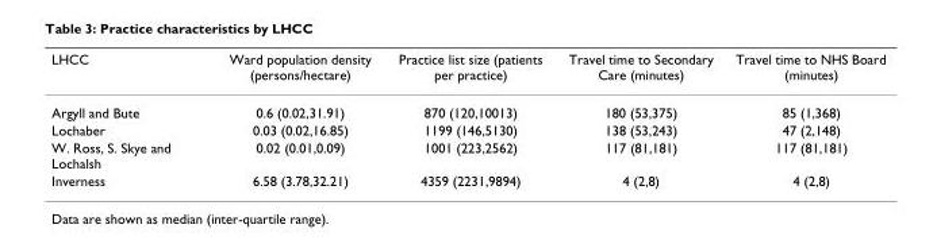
<table><thead><tr><td>LHCC</td><td>Ward population density (persons/hectare)</td><td>Practice list size (patients per practice)</td><td>Travel time to Secondary Care (minutes)</td><td>Travel time to NHS Board (minutes)</td></tr></thead><tbody><tr><td>Argyll and Bute</td><td>0.6 (0.02,31.91)</td><td>870 (120,10013)</td><td>180 (53,375)</td><td>85 (1,368)</td></tr><tr><td>Lochaber</td><td>0.03 (0.02,16.85)</td><td>1199 (146,5130)</td><td>138 (53,243)</td><td>47 (2,148)</td></tr><tr><td>W. Ross, S. Skye and Lochalsh</td><td>0.02 (0.01,0.09)</td><td>1001 (223,2562)</td><td>117 (81,181)</td><td>117 (81,181)</td></tr><tr><td>Inverness</td><td>6.58 (3.78,32.21)</td><td>4359 (2231,9894)</td><td>4 (2,8)</td><td>4 (2,8)</td></tr></tbody></table>